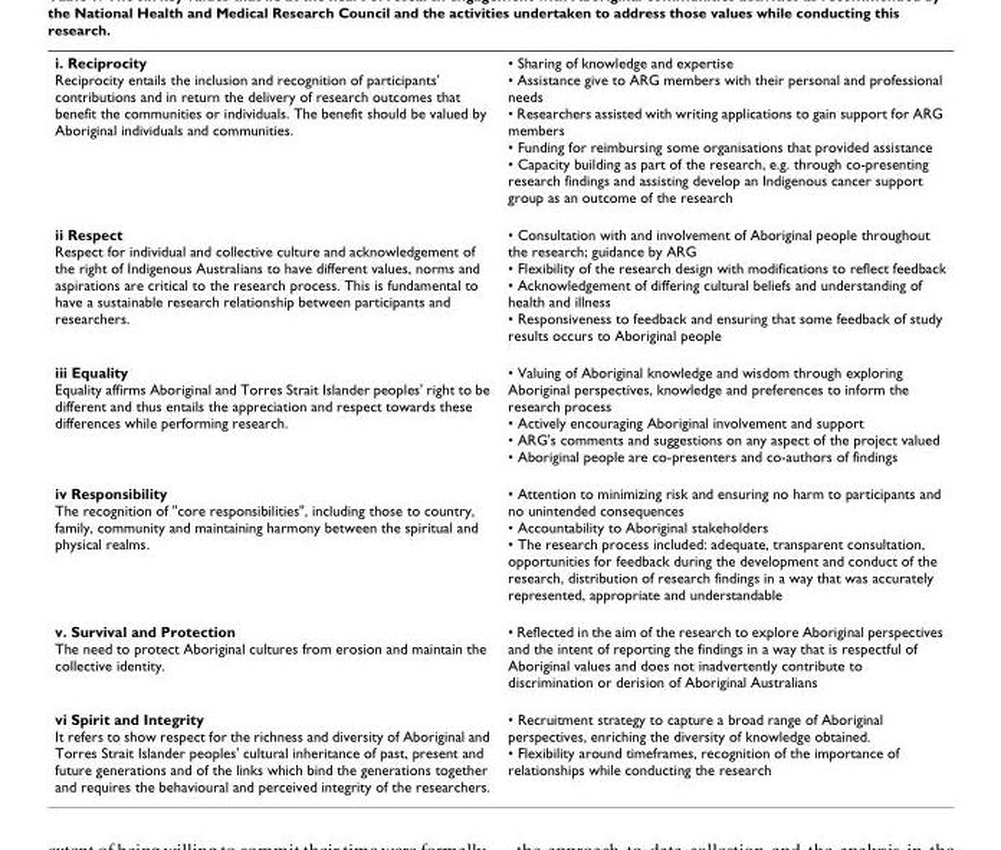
<table><tbody><tr><td>i. Reciprocity Reciprocity entails the inclusion and recognition of participants&#x27; contributions and in return the delivery of research outcomes that benefit the communities or individuals. The benefit should be valued by Aboriginal individuals and communities.</td><td>• Sharing of knowledge and expertise • Assistance give to ARG members with their personal and professional needs • Researchers assisted with writing applications to gain support for ARG members • Funding for reimbursing some organisations that provided assistance • Capacity building as part of the research, e.g. through co-presenting research findings and assisting develop an Indigenous cancer support group as an outcome of the research</td></tr><tr><td>ii Respect Respect for individual and collective culture and acknowledgement of the right of Indigenous Australians to have different values, norms and aspirations are critical to the research process. This is fundamental to have a sustainable research relationship between participants and researchers.</td><td>• Consultation with and involvement of Aboriginal people throughout the research; guidance by ARG • Flexibility of the research design with modifications to reflect feedback • Acknowledgement of differing cultural beliefs and understanding of health and illness • Responsiveness to feedback and ensuring that some feedback of study results occurs to Aboriginal people</td></tr><tr><td>iii Equality Equality affirms Aboriginal and Torres Strait Islander peoples&#x27; right to be different and thus entails the appreciation and respect towards these differences while performing research.</td><td>• Valuing of Aboriginal knowledge and wisdom through exploring Aboriginal perspectives, knowledge and preferences to inform the research process • Actively encouraging Aboriginal involvement and support • ARG&#x27;s comments and suggestions on any aspect of the project valued • Aboriginal people are co-presenters and co-authors of findings</td></tr><tr><td>iv Responsibility The recognition of &quot;core responsibilities&quot;, including those to country, family, community and maintaining harmony between the spiritual and physical realms.</td><td>• Attention to minimizing risk and ensuring no harm to participants and no unintended consequences • Accountability to Aboriginal stakeholders • The research process included: adequate, transparent consultation, opportunities for feedback during the development and conduct of the research, distribution of research findings in a way that was accurately represented, appropriate and understandable</td></tr><tr><td>v. Survival and Protection The need to protect Aboriginal cultures from erosion and maintain the collective identity.</td><td>• Reflected in the aim of the research to explore Aboriginal perspectives and the intent of reporting the findings in a way that is respectful of Aboriginal values and does not inadvertently contribute to discrimination or derision of Aboriginal Australians</td></tr><tr><td>vi Spirit and Integrity It refers to show respect for the richness and diversity of Aboriginal and Torres Strait Islander peoples&#x27; cultural inheritance of past, present and future generations and of the links which bind the generations together and requires the behavioural and perceived integrity of the researchers.</td><td>• Recruitment strategy to capture a broad range of Aboriginal perspectives, enriching the diversity of knowledge obtained. • Flexibility around timeframes, recognition of the importance of relationships while conducting the research</td></tr></tbody></table>